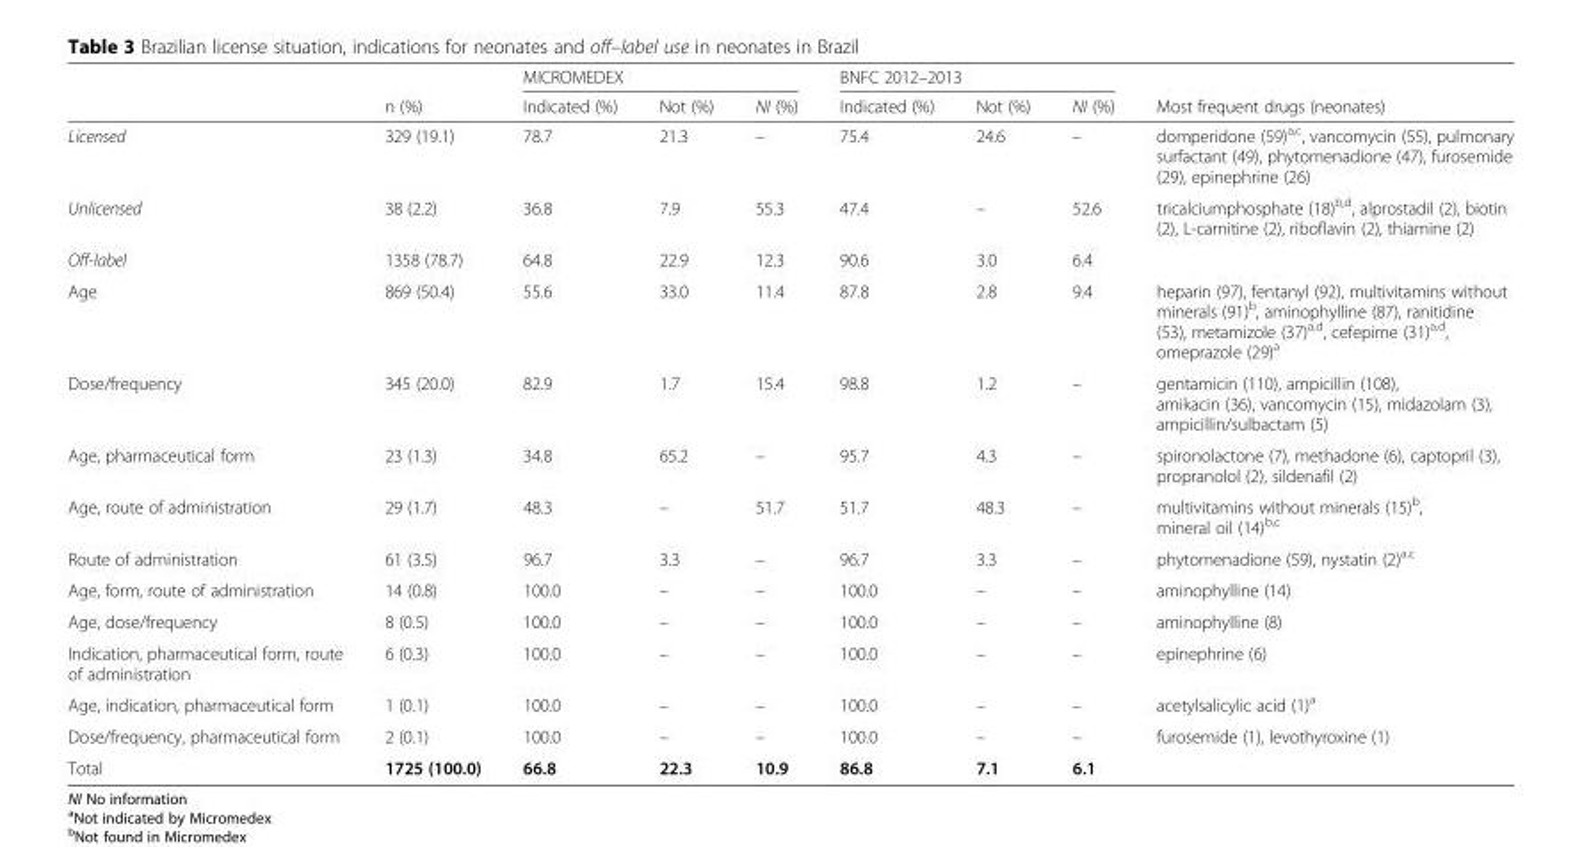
<table><thead><tr><td rowspan="2"></td><td rowspan="2">n (%)</td><td colspan="3">MICROMEDEX</td><td colspan="3">BNFC 2012–2013</td><td rowspan="2">Most frequent drugs (neonates)</td></tr><tr><td>Indicated (%)</td><td>Not (%)</td><td>NI (%)</td><td>Indicated (%)</td><td>Not (%)</td><td>NI (%)</td></tr></thead><tbody><tr><td>Licensed</td><td>329 (19.1)</td><td>78.7</td><td>21.3</td><td>–</td><td>75.4</td><td>24.6</td><td>–</td><td>domperidone (59)<sup>a,c</sup>, vancomycin (55), pulmonary surfactant (49), phytomenadione (47), furosemide (29), epinephrine (26)</td></tr><tr><td>Unlicensed</td><td>38 (2.2)</td><td>36.8</td><td>7.9</td><td>55.3</td><td>47.4</td><td>–</td><td>52.6</td><td>tricalciumphosphate (18)<sup>b,d</sup>, alprostadil (2), biotin (2), L-carnitine (2), riboflavin (2), thiamine (2)</td></tr><tr><td>Off-label</td><td>1358 (78.7)</td><td>64.8</td><td>22.9</td><td>12.3</td><td>90.6</td><td>3.0</td><td>6.4</td><td></td></tr><tr><td>Age</td><td>869 (50.4)</td><td>55.6</td><td>33.0</td><td>11.4</td><td>87.8</td><td>2.8</td><td>9.4</td><td>heparin (97), fentanyl (92), multivitamins without minerals (91)<sup>b</sup>, aminophylline (87), ranitidine (53), metamizole (37)<sup>a,d</sup>, cefepime (31)<sup>a,d</sup>, omeprazole (29)<sup>a</sup></td></tr><tr><td>Dose/frequency</td><td>345 (20.0)</td><td>82.9</td><td>1.7</td><td>15.4</td><td>98.8</td><td>1.2</td><td>–</td><td>gentamicin (110), ampicillin (108), amikacin (36), vancomycin (15), midazolam (3), ampicillin/sulbactam (5)</td></tr><tr><td>Age, pharmaceutical form</td><td>23 (1.3)</td><td>34.8</td><td>65.2</td><td>–</td><td>95.7</td><td>4.3</td><td>–</td><td>spironolactone (7), methadone (6), captopril (3), propranolol (2), sildenafil (2)</td></tr><tr><td>Age, route of administration</td><td>29 (1.7)</td><td>48.3</td><td>–</td><td>51.7</td><td>51.7</td><td>48.3</td><td>–</td><td>multivitamins without minerals (15)<sup>b</sup>, mineral oil (14)<sup>b,c</sup></td></tr><tr><td>Route of administration</td><td>61 (3.5)</td><td>96.7</td><td>3.3</td><td>–</td><td>96.7</td><td>3.3</td><td>–</td><td>phytomenadione (59), nystatin (2)<sup>a,c</sup></td></tr><tr><td>Age, form, route of administration</td><td>14 (0.8)</td><td>100.0</td><td>–</td><td>–</td><td>100.0</td><td>–</td><td>–</td><td>aminophylline (14)</td></tr><tr><td>Age, dose/frequency</td><td>8 (0.5)</td><td>100.0</td><td>–</td><td>–</td><td>100.0</td><td>–</td><td>–</td><td>aminophylline (8)</td></tr><tr><td>Indication, pharmaceutical form, route of administration</td><td>6 (0.3)</td><td>100.0</td><td>–</td><td>–</td><td>100.0</td><td>–</td><td>–</td><td>epinephrine (6)</td></tr><tr><td>Age, indication, pharmaceutical form</td><td>1 (0.1)</td><td>100.0</td><td>–</td><td>–</td><td>100.0</td><td>–</td><td>–</td><td>acetylsalicylic acid (1)<sup>a</sup></td></tr><tr><td>Dose/frequency, pharmaceutical form</td><td>2 (0.1)</td><td>100.0</td><td>–</td><td>–</td><td>100.0</td><td>–</td><td>–</td><td>furosemide (1), levothyroxine (1)</td></tr><tr><td>Total</td><td>1725 (100.0)</td><td>66.8</td><td>22.3</td><td>10.9</td><td>86.8</td><td>7.1</td><td>6.1</td><td></td></tr></tbody></table>